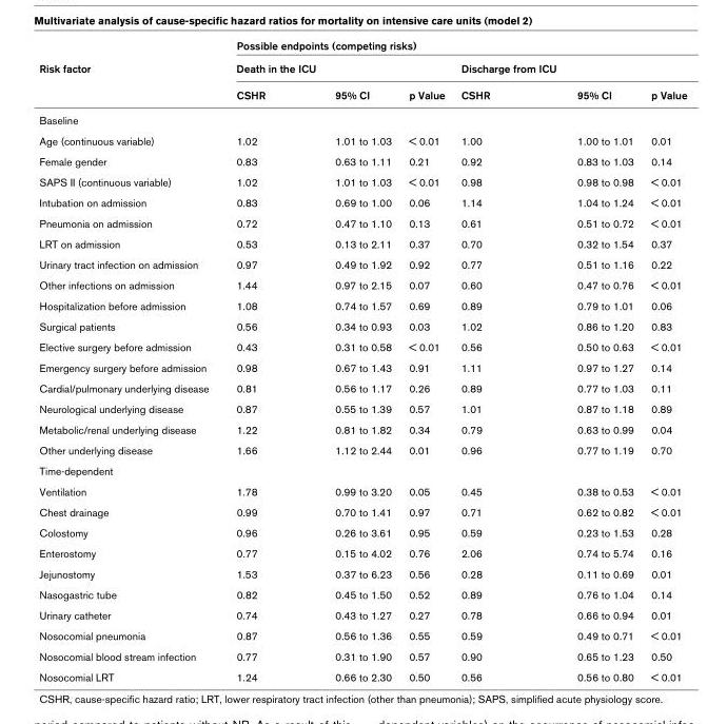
<table><thead><tr><td rowspan="3">Risk factor</td><td colspan="6">Possible endpoints (competing risks)</td></tr><tr><td rowspan="2">Death in the ICU CSHR</td><td rowspan="2">95% CI</td><td rowspan="2">p Value</td><td rowspan="2">Discharge from ICU CSHR</td><td rowspan="2">95% CI</td><td rowspan="2">p Value</td></tr><tr></tr></thead><tbody><tr><td colspan="7">Baseline</td></tr><tr><td>Age (continuous variable)</td><td>1.02</td><td>1.01 to 1.03</td><td>&lt; 0.01</td><td>1.00</td><td>1.00 to 1.01</td><td>0.01</td></tr><tr><td>Female gender</td><td>0.83</td><td>0.63 to 1.11</td><td>0.21</td><td>0.92</td><td>0.83 to 1.03</td><td>0.14</td></tr><tr><td>SAPS II (continuous variable)</td><td>1.02</td><td>1.01 to 1.03</td><td>&lt; 0.01</td><td>0.98</td><td>0.98 to 0.98</td><td>&lt; 0.01</td></tr><tr><td>Intubation on admission</td><td>0.83</td><td>0.69 to 1.00</td><td>0.06</td><td>1.14</td><td>1.04 to 1.24</td><td>&lt; 0.01</td></tr><tr><td>Pneumonia on admission</td><td>0.72</td><td>0.47 to 1.10</td><td>0.13</td><td>0.61</td><td>0.51 to 0.72</td><td>&lt; 0.01</td></tr><tr><td>LRT on admission</td><td>0.53</td><td>0.13 to 2.11</td><td>0.37</td><td>0.70</td><td>0.32 to 1.54</td><td>0.37</td></tr><tr><td>Urinary tract infection on admission</td><td>0.97</td><td>0.49 to 1.92</td><td>0.92</td><td>0.77</td><td>0.51 to 1.16</td><td>0.22</td></tr><tr><td>Other infections on admission</td><td>1.44</td><td>0.97 to 2.15</td><td>0.07</td><td>0.60</td><td>0.47 to 0.76</td><td>&lt; 0.01</td></tr><tr><td>Hospitalization before admission</td><td>1.08</td><td>0.74 to 1.57</td><td>0.69</td><td>0.89</td><td>0.79 to 1.01</td><td>0.06</td></tr><tr><td>Surgical patients</td><td>0.56</td><td>0.34 to 0.93</td><td>0.03</td><td>1.02</td><td>0.86 to 1.20</td><td>0.83</td></tr><tr><td>Elective surgery before admission</td><td>0.43</td><td>0.31 to 0.58</td><td>&lt; 0.01</td><td>0.56</td><td>0.50 to 0.63</td><td>&lt; 0.01</td></tr><tr><td>Emergency surgery before admission</td><td>0.98</td><td>0.67 to 1.43</td><td>0.91</td><td>1.11</td><td>0.97 to 1.27</td><td>0.14</td></tr><tr><td>Cardial/pulmonary underlying disease</td><td>0.81</td><td>0.56 to 1.17</td><td>0.26</td><td>0.89</td><td>0.77 to 1.03</td><td>0.11</td></tr><tr><td>Neurological underlying disease</td><td>0.87</td><td>0.55 to 1.39</td><td>0.57</td><td>1.01</td><td>0.87 to 1.18</td><td>0.89</td></tr><tr><td>Metabolic/renal underlying disease</td><td>1.22</td><td>0.81 to 1.82</td><td>0.34</td><td>0.79</td><td>0.63 to 0.99</td><td>0.04</td></tr><tr><td>Other underlying disease</td><td>1.66</td><td>1.12 to 2.44</td><td>0.01</td><td>0.96</td><td>0.77 to 1.19</td><td>0.70</td></tr><tr><td colspan="7">Time-dependent</td></tr><tr><td>Ventilation</td><td>1.78</td><td>0.99 to 3.20</td><td>0.05</td><td>0.45</td><td>0.38 to 0.53</td><td>&lt; 0.01</td></tr><tr><td>Chest drainage</td><td>0.99</td><td>0.70 to 1.41</td><td>0.97</td><td>0.71</td><td>0.62 to 0.82</td><td>&lt; 0.01</td></tr><tr><td>Colostomy</td><td>0.96</td><td>0.26 to 3.61</td><td>0.95</td><td>0.59</td><td>0.23 to 1.53</td><td>0.28</td></tr><tr><td>Enterostomy</td><td>0.77</td><td>0.15 to 4.02</td><td>0.76</td><td>2.06</td><td>0.74 to 5.74</td><td>0.16</td></tr><tr><td>Jejunostomy</td><td>1.53</td><td>0.37 to 6.23</td><td>0.56</td><td>0.28</td><td>0.11 to 0.69</td><td>0.01</td></tr><tr><td>Nasogastric tube</td><td>0.82</td><td>0.45 to 1.50</td><td>0.52</td><td>0.89</td><td>0.76 to 1.04</td><td>0.14</td></tr><tr><td>Urinary catheter</td><td>0.74</td><td>0.43 to 1.27</td><td>0.27</td><td>0.78</td><td>0.66 to 0.94</td><td>0.01</td></tr><tr><td>Nosocomial pneumonia</td><td>0.87</td><td>0.56 to 1.36</td><td>0.55</td><td>0.59</td><td>0.49 to 0.71</td><td>&lt; 0.01</td></tr><tr><td>Nosocomial blood stream infection</td><td>0.77</td><td>0.31 to 1.90</td><td>0.57</td><td>0.90</td><td>0.65 to 1.23</td><td>0.50</td></tr><tr><td>Nosocomial LRT</td><td>1.24</td><td>0.66 to 2.30</td><td>0.50</td><td>0.56</td><td>0.56 to 0.80</td><td>&lt; 0.01</td></tr></tbody></table>